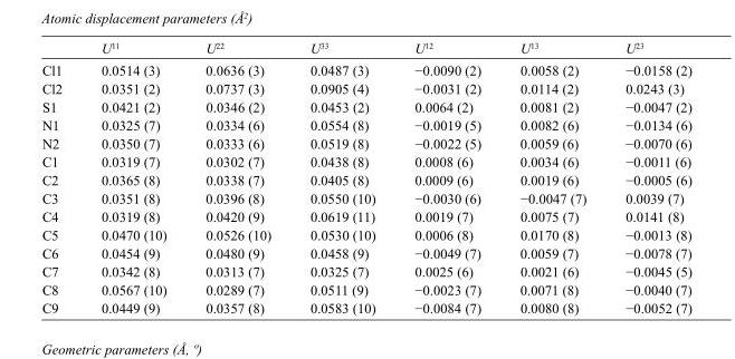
<table><thead><tr><td></td><td>U<sup>11</sup></td><td>U<sup>22</sup></td><td>U<sup>33</sup></td><td>U<sup>12</sup></td><td>U<sup>13</sup></td><td>U<sup>23</sup></td></tr></thead><tbody><tr><td>Cl1</td><td>0.0514 (3)</td><td>0.0636 (3)</td><td>0.0487 (3)</td><td>−0.0090 (2)</td><td>0.0058 (2)</td><td>−0.0158 (2)</td></tr><tr><td>Cl2</td><td>0.0351 (2)</td><td>0.0737 (3)</td><td>0.0905 (4)</td><td>−0.0031 (2)</td><td>0.0114 (2)</td><td>0.0243 (3)</td></tr><tr><td>S1</td><td>0.0421 (2)</td><td>0.0346 (2)</td><td>0.0453 (2)</td><td>0.0064 (2)</td><td>0.0081 (2)</td><td>−0.0047 (2)</td></tr><tr><td>N1</td><td>0.0325 (7)</td><td>0.0334 (6)</td><td>0.0554 (8)</td><td>−0.0019 (5)</td><td>0.0082 (6)</td><td>−0.0134 (6)</td></tr><tr><td>N2</td><td>0.0350 (7)</td><td>0.0333 (6)</td><td>0.0519 (8)</td><td>−0.0022 (5)</td><td>0.0059 (6)</td><td>−0.0070 (6)</td></tr><tr><td>C1</td><td>0.0319 (7)</td><td>0.0302 (7)</td><td>0.0438 (8)</td><td>0.0008 (6)</td><td>0.0034 (6)</td><td>−0.0011 (6)</td></tr><tr><td>C2</td><td>0.0365 (8)</td><td>0.0338 (7)</td><td>0.0405 (8)</td><td>0.0009 (6)</td><td>0.0019 (6)</td><td>−0.0005 (6)</td></tr><tr><td>C3</td><td>0.0351 (8)</td><td>0.0396 (8)</td><td>0.0550 (10)</td><td>−0.0030 (6)</td><td>−0.0047 (7)</td><td>0.0039 (7)</td></tr><tr><td>C4</td><td>0.0319 (8)</td><td>0.0420 (9)</td><td>0.0619 (11)</td><td>0.0019 (7)</td><td>0.0075 (7)</td><td>0.0141 (8)</td></tr><tr><td>C5</td><td>0.0470 (10)</td><td>0.0526 (10)</td><td>0.0530 (10)</td><td>0.0006 (8)</td><td>0.0170 (8)</td><td>−0.0013 (8)</td></tr><tr><td>C6</td><td>0.0454 (9)</td><td>0.0480 (9)</td><td>0.0458 (9)</td><td>−0.0049 (7)</td><td>0.0059 (7)</td><td>−0.0078 (7)</td></tr><tr><td>C7</td><td>0.0342 (8)</td><td>0.0313 (7)</td><td>0.0325 (7)</td><td>0.0025 (6)</td><td>0.0021 (6)</td><td>−0.0045 (5)</td></tr><tr><td>C8</td><td>0.0567 (10)</td><td>0.0289 (7)</td><td>0.0511 (9)</td><td>−0.0023 (7)</td><td>0.0071 (8)</td><td>−0.0040 (7)</td></tr><tr><td>C9</td><td>0.0449 (9)</td><td>0.0357 (8)</td><td>0.0583 (10)</td><td>−0.0084 (7)</td><td>0.0080 (8)</td><td>−0.0052 (7)</td></tr></tbody></table>